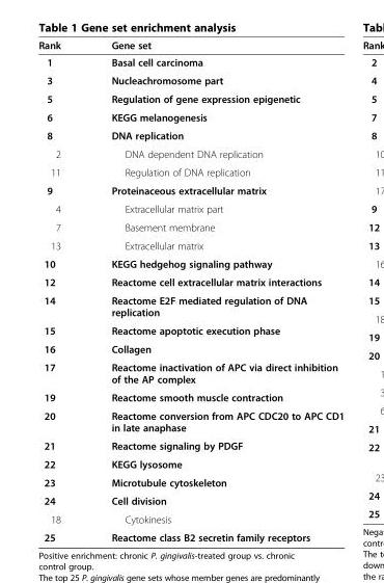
<table><thead><tr><td>Rank</td><td>Gene set</td></tr></thead><tbody><tr><td>1</td><td>Basal cell carcinoma</td></tr><tr><td>3</td><td>Nucleachromosome part</td></tr><tr><td>5</td><td>Regulation of gene expression epigenetic</td></tr><tr><td>6</td><td>KEGG melanogenesis</td></tr><tr><td>8</td><td>DNA replication</td></tr><tr><td>2</td><td>DNA dependent DNA replication</td></tr><tr><td>11</td><td>Regulation of DNA replication</td></tr><tr><td>9</td><td>Proteinaceous extracellular matrix</td></tr><tr><td>4</td><td>Extracellular matrix part</td></tr><tr><td>7</td><td>Basement membrane</td></tr><tr><td>13</td><td>Extracellular matrix</td></tr><tr><td>10</td><td>KEGG hedgehog signaling pathway</td></tr><tr><td>12</td><td>Reactome cell extracellular matrix interactions</td></tr><tr><td>14</td><td>Reactome E2F mediated regulation of DNA replication</td></tr><tr><td>15</td><td>Reactome apoptotic execution phase</td></tr><tr><td>16</td><td>Collagen</td></tr><tr><td>17</td><td>Reactome inactivation of APC via direct inhibition of the AP complex</td></tr><tr><td>19</td><td>Reactome smooth muscle contraction</td></tr><tr><td>20</td><td>Reactome conversion from APC CDC20 to APC CD1 in late anaphase</td></tr><tr><td>21</td><td>Reactome signaling by PDGF</td></tr><tr><td>22</td><td>KEGG lysosome</td></tr><tr><td>23</td><td>Microtubule cytoskeleton</td></tr><tr><td>24</td><td>Cell division</td></tr><tr><td>18</td><td>Cytokinesis</td></tr><tr><td>25</td><td>Reactome class B2 secretin family receptors</td></tr></tbody></table>